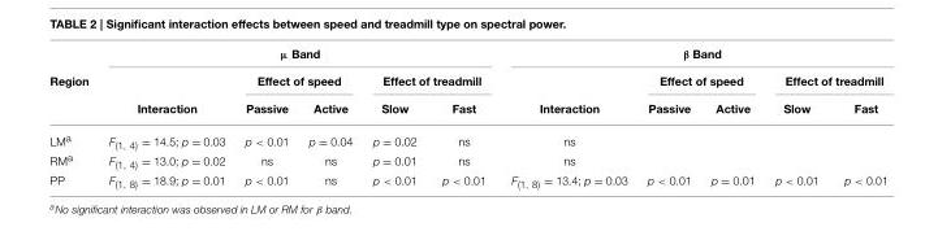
<table><thead><tr><td rowspan="3">Region</td><td colspan="5">µ Band</td><td colspan="5">β Band</td></tr><tr><td rowspan="2">Interaction</td><td colspan="2">Effect of speed</td><td colspan="2">Effect of treadmill</td><td rowspan="2">Interaction</td><td colspan="2">Effect of speed</td><td colspan="2">Effect of treadmill</td></tr><tr><td>Passive</td><td>Active</td><td>Slow</td><td>Fast</td><td>Passive</td><td>Active</td><td>Slow</td><td>Fast</td></tr></thead><tbody><tr><td>LM<sup>a</sup></td><td>F<sub>(1, 4)</sub> = 14.5; p = 0.03</td><td>p &lt; 0.01</td><td>p = 0.04</td><td>p = 0.02</td><td>ns</td><td>ns</td><td></td><td></td><td></td><td></td></tr><tr><td>RM<sup>a</sup></td><td>F<sub>(1, 4)</sub> = 13.0; p = 0.02</td><td>ns</td><td>ns</td><td>p = 0.01</td><td>ns</td><td>ns</td><td></td><td></td><td></td><td></td></tr><tr><td>PP</td><td>F<sub>(1, 8)</sub> = 18.9; p = 0.01</td><td>p &lt; 0.01</td><td>ns</td><td>p &lt; 0.01</td><td>p &lt; 0.01</td><td>F<sub>(1, 8)</sub> = 13.4; p = 0.03</td><td>p &lt; 0.01</td><td>p = 0.01</td><td>p &lt; 0.01</td><td>p &lt; 0.01</td></tr></tbody></table>